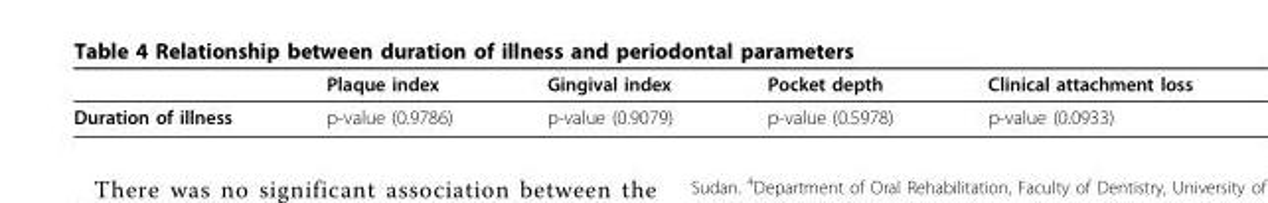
<table><thead><tr><td></td><td>Plaque index</td><td>Gingival index</td><td>Pocket depth</td><td>Clinical attachment loss</td></tr></thead><tbody><tr><td>Duration of illness</td><td>p-value (0.9786)</td><td>p-value (0.9079)</td><td>p-value (0.5978)</td><td>p-value (0.0933)</td></tr></tbody></table>